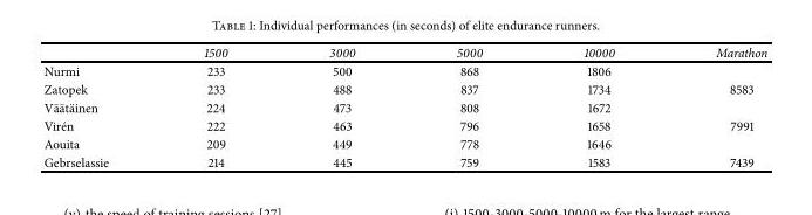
<table><thead><tr><td></td><td>1500</td><td>3000</td><td>5000</td><td>10000</td><td>Marathon</td></tr></thead><tbody><tr><td>Nurmi</td><td>233</td><td>500</td><td>868</td><td>1806</td><td></td></tr><tr><td>Zatopek</td><td>233</td><td>488</td><td>837</td><td>1734</td><td>8583</td></tr><tr><td>V¨a¨at¨ainen</td><td>224</td><td>473</td><td>808</td><td>1672</td><td></td></tr><tr><td>Vir´en</td><td>222</td><td>463</td><td>796</td><td>1658</td><td>7991</td></tr><tr><td>Aouita</td><td>209</td><td>449</td><td>778</td><td>1646</td><td></td></tr><tr><td>Gebrselassie</td><td>214</td><td>445</td><td>759</td><td>1583</td><td>7439</td></tr></tbody></table>